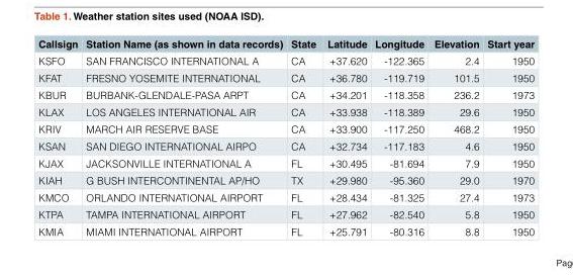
<table><thead><tr><td>Callsign</td><td>Station Name (as shown in data records)</td><td>State</td><td>Latitude</td><td>Longitude</td><td>Elevation</td><td>Start year</td></tr></thead><tbody><tr><td>KSFO</td><td>SAN FRANCISCO INTERNATIONAL A</td><td>CA</td><td>+37.620</td><td>-122.365</td><td>2.4</td><td>1950</td></tr><tr><td>KFAT</td><td>FRESNO YOSEMITE INTERNATIONAL</td><td>CA</td><td>+36.780</td><td>-119.719</td><td>101.5</td><td>1950</td></tr><tr><td>KBUR</td><td>BURBANK-GLENDALE-PASA ARPT</td><td>CA</td><td>+34.201</td><td>-118.358</td><td>236.2</td><td>1973</td></tr><tr><td>KLAX</td><td>LOS ANGELES INTERNATIONAL AIR</td><td>CA</td><td>+33.938</td><td>-118.389</td><td>29.6</td><td>1950</td></tr><tr><td>KRIV</td><td>MARCH AIR RESERVE BASE</td><td>CA</td><td>+33.900</td><td>-117.250</td><td>468.2</td><td>1950</td></tr><tr><td>KSAN</td><td>SAN DIEGO INTERNATIONAL AIRPO</td><td>CA</td><td>+32.734</td><td>-117.183</td><td>4.6</td><td>1950</td></tr><tr><td>KJAX</td><td>JACKSONVILLE INTERNATIONAL A</td><td>FL</td><td>+30.495</td><td>-81.694</td><td>7.9</td><td>1950</td></tr><tr><td>KIAH</td><td>G BUSH INTERCONTINENTAL AP/HO</td><td>TX</td><td>+29.980</td><td>-95.360</td><td>29.0</td><td>1970</td></tr><tr><td>KMCO</td><td>ORLANDO INTERNATIONAL AIRPORT</td><td>FL</td><td>+28.434</td><td>-81.325</td><td>27.4</td><td>1973</td></tr><tr><td>KTPA</td><td>TAMPA INTERNATIONAL AIRPORT</td><td>FL</td><td>+27.962</td><td>-82.540</td><td>5.8</td><td>1950</td></tr><tr><td>KMIA</td><td>MIAMI INTERNATIONAL AIRPORT</td><td>FL</td><td>+25.791</td><td>-80.316</td><td>8.8</td><td>1950</td></tr></tbody></table>